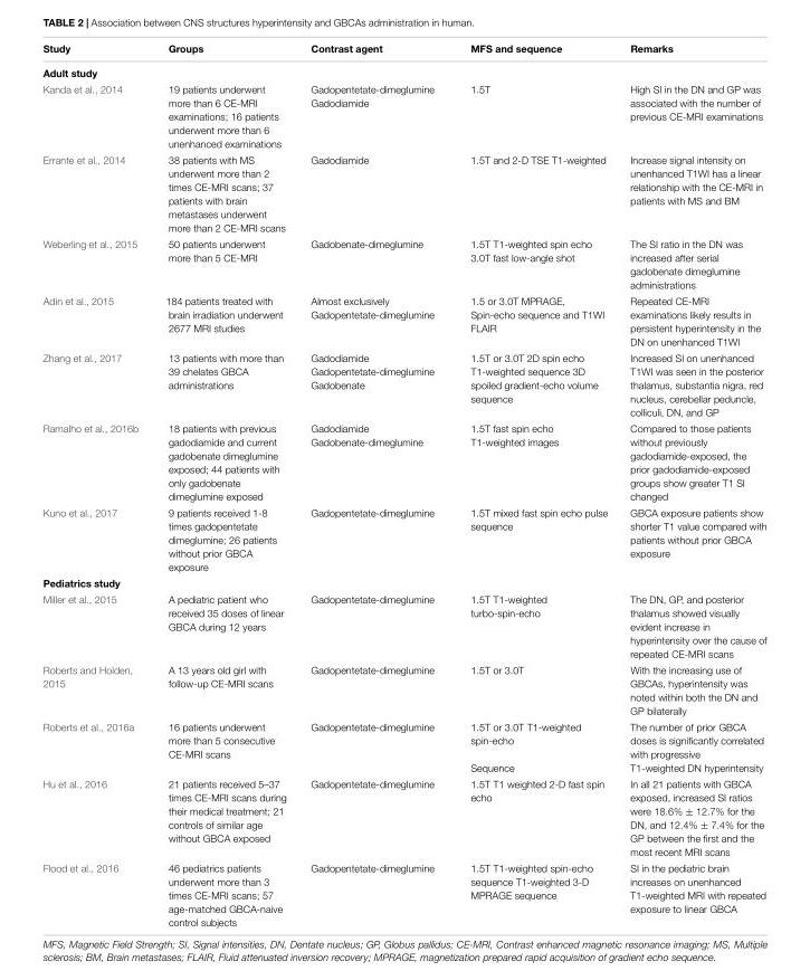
<table><thead><tr><td>Study</td><td>Groups</td><td>Contrast agent</td><td>MFS and sequence</td><td>Remarks</td></tr></thead><tbody><tr><td colspan="5">Adult study</td></tr><tr><td>Kanda et al., 2014</td><td>19 patients underwent more than 6 CE-MRI examinations; 16 patients underwent more than 6 unenhanced examinations</td><td>Gadopentetate-dimeglumine Gadodiamide</td><td>1.5T</td><td>High SI in the DN and GP was associated with the number of previous CE-MRI examinations</td></tr><tr><td>Errante et al., 2014</td><td>38 patients with MS underwent more than 2 times CE-MRI scans; 37 patients with brain metastases underwent more than 2 CE-MRI scans</td><td>Gadodiamide</td><td>1.5T and 2-D TSE T1-weighted</td><td>Increase signal intensity on unenhanced T1WI has a linear relationship with the CE-MRI in patients with MS and BM</td></tr><tr><td>Weberling et al., 2015</td><td>50 patients underwent more than 5 CE-MRI</td><td>Gadobenate-dimeglumine</td><td>1.5T T1-weighted spin echo 3.0T fast low-angle shot</td><td>The SI ratio in the DN was increased after serial gadobenate dimeglumine administrations</td></tr><tr><td>Adin et al., 2015</td><td>184 patients treated with brain irradiation underwent 2677 MRI studies</td><td>Almost exclusively Gadopentetate-dimeglumine</td><td>1.5 or 3.0T MPRAGE, Spin-echo sequence and T1WI FLAIR</td><td>Repeated CE-MRI examinations likely results in persistent hyperintensity in the DN on unenhanced T1WI</td></tr><tr><td>Zhang et al., 2017</td><td>13 patients with more than 39 chelates GBCA administrations</td><td>Gadodiamide Gadopentetate-dimeglumine Gadobenate</td><td>1.5T or 3.0T 2D spin echo T1-weighted sequence 3D spoiled gradient-echo volume sequence</td><td>Increased SI on unenhanced T1WI was seen in the posterior thalamus, substantia nigra, red nucleus, cerebellar peduncle, colliculi, DN, and GP</td></tr><tr><td>Ramalho et al., 2016b</td><td>18 patients with previous gadodiamide and current gadobenate dimeglumine exposed; 44 patients with only gadobenate dimeglumine exposed</td><td>Gadodiamide Gadobenate-dimeglumine</td><td>1.5T fast spin echo T1-weighted images</td><td>Compared to those patients without previously gadodiamide-exposed, the prior gadodiamide-exposed groups show greater T1 SI changed</td></tr><tr><td>Kuno et al., 2017</td><td>9 patients received 1-8 times gadopentetate dimeglumine; 26 patients without prior GBCA exposure</td><td>Gadopentetate-dimeglumine</td><td>1.5T mixed fast spin echo pulse sequence</td><td>GBCA exposure patients show shorter T1 value compared with patients without prior GBCA exposure</td></tr><tr><td colspan="5">Pediatrics study</td></tr><tr><td>Miller et al., 2015</td><td>A pediatric patient who received 35 doses of linear GBCA during 12 years</td><td>Gadopentetate-dimeglumine</td><td>1.5T T1-weighted turbo-spin-echo</td><td>The DN, GP, and posterior thalamus showed visually evident increase in hyperintensity over the cause of repeated CE-MRI scans</td></tr><tr><td>Roberts and Holden, 2015</td><td>A 13 years old girl with follow-up CE-MRI scans</td><td>Gadopentetate-dimeglumine</td><td>1.5T or 3.0T</td><td>With the increasing use of GBCAs, hyperintensity was noted within both the DN and GP bilaterally</td></tr><tr><td>Roberts et al., 2016a</td><td>16 patients underwent more than 5 consecutive CE-MRI scans</td><td>Gadopentetate-dimeglumine</td><td>1.5T or 3.0T T1-weighted spin-echo Sequence</td><td>The number of prior GBCA doses is significantly correlated with progressive T1-weighted DN hyperintensity</td></tr><tr><td>Hu et al., 2016</td><td>21 patients received 5–37 times CE-MRI scans during their medical treatment; 21 controls of similar age without GBCA exposed</td><td>Gadopentetate-dimeglumine</td><td>1.5T T1 weighted 2-D fast spin echo</td><td>In all 21 patients with GBCA exposed, increased SI ratios were 18.6% ± 12.7% for the DN, and 12.4% ± 7.4% for the GP between the first and the most recent MRI scans</td></tr><tr><td>Flood et al., 2016</td><td>46 pediatrics patients underwent more than 3 times CE-MRI scans; 57 age-matched GBCA-naive control subjects</td><td>Gadopentetate-dimeglumine</td><td>1.5T T1-weighted spin-echo sequence T1-weighted 3-D MPRAGE sequence</td><td>SI in the pediatric brain increases on unenhanced T1-weighted MRI with repeated exposure to linear GBCA</td></tr></tbody></table>